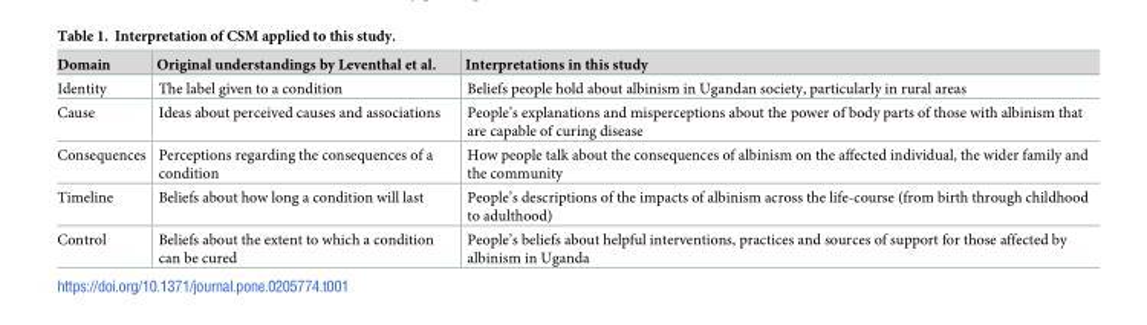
<table><thead><tr><td>Domain</td><td>Original understandings by Leventhal et al.</td><td>Interpretations in this study</td></tr></thead><tbody><tr><td>Identity</td><td>The label given to a condition</td><td>Beliefs people hold about albinism in Ugandan society, particularly in rural areas</td></tr><tr><td>Cause</td><td>Ideas about perceived causes and associations</td><td>People’s explanations and misperceptions about the power of body parts of those with albinism that are capable of curing disease</td></tr><tr><td>Consequences</td><td>Perceptions regarding the consequences of a condition</td><td>How people talk about the consequences of albinism on the affected individual, the wider family and the community</td></tr><tr><td>Timeline</td><td>Beliefs about how long a condition will last</td><td>People’s descriptions of the impacts of albinism across the life-course (from birth through childhood to adulthood)</td></tr><tr><td>Control</td><td>Beliefs about the extent to which a condition can be cured</td><td>People’s beliefs about helpful interventions, practices and sources of support for those affected by albinism in Uganda</td></tr></tbody></table>